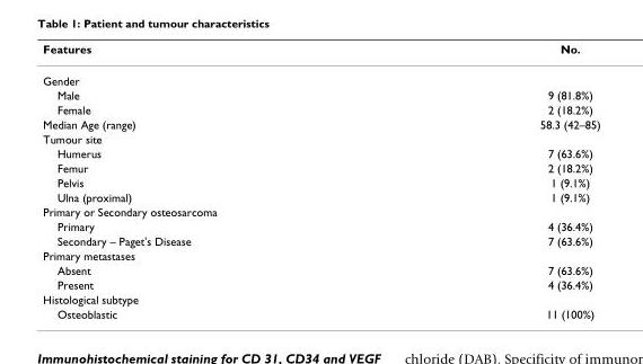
<table><thead><tr><td>Features</td><td>No.</td></tr></thead><tbody><tr><td colspan="2">Gender</td></tr><tr><td>Male</td><td>9 (81.8%)</td></tr><tr><td>Female</td><td>2 (18.2%)</td></tr><tr><td>Median Age (range)</td><td>58.3 (42–85)</td></tr><tr><td colspan="2">Tumour site</td></tr><tr><td>Humerus</td><td>7 (63.6%)</td></tr><tr><td>Femur</td><td>2 (18.2%)</td></tr><tr><td>Pelvis</td><td>1 (9.1%)</td></tr><tr><td>Ulna (proximal)</td><td>1 (9.1%)</td></tr><tr><td colspan="2">Primary or Secondary osteosarcoma</td></tr><tr><td>Primary</td><td>4 (36.4%)</td></tr><tr><td>Secondary – Paget&#x27;s Disease</td><td>7 (63.6%)</td></tr><tr><td colspan="2">Primary metastases</td></tr><tr><td>Absent</td><td>7 (63.6%)</td></tr><tr><td>Present</td><td>4 (36.4%)</td></tr><tr><td colspan="2">Histological subtype</td></tr><tr><td>Osteoblastic</td><td>11 (100%)</td></tr></tbody></table>